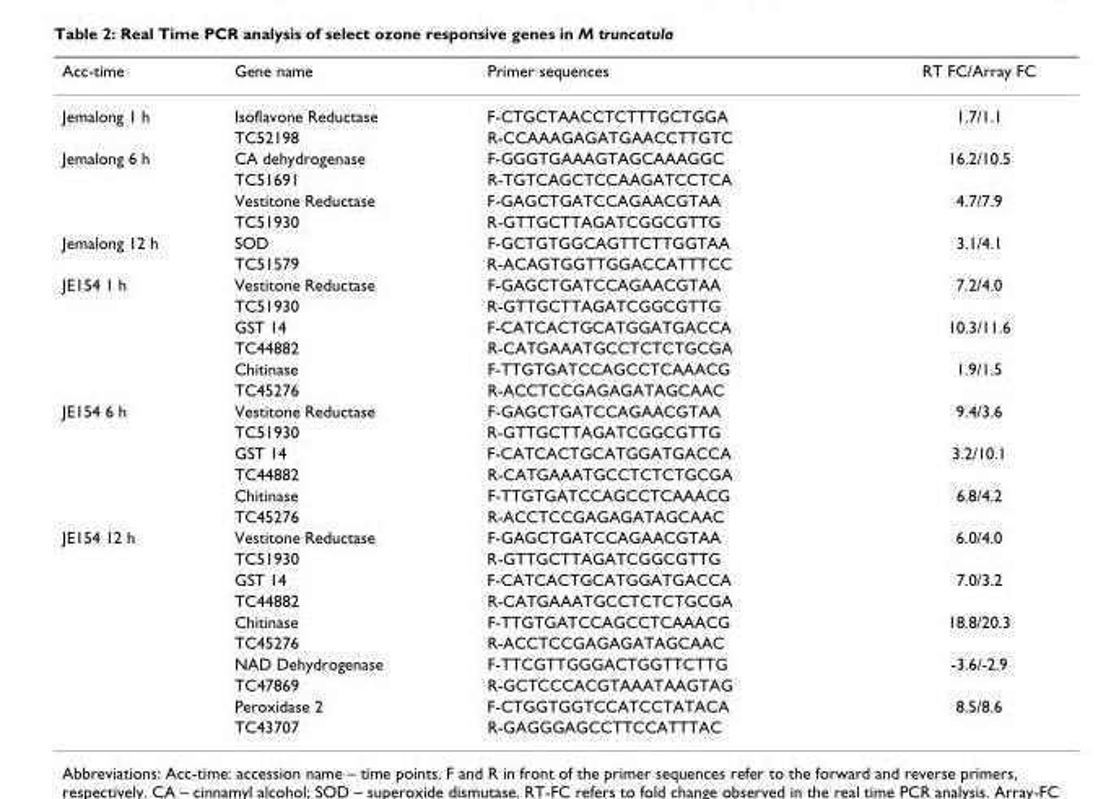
<table><thead><tr><td>Acc-time</td><td>Gene name</td><td>Primer sequences</td><td>RT FC/Array FC</td></tr></thead><tbody><tr><td rowspan="2">Jemalong 1 h</td><td>Isoflavone Reductase</td><td>F-CTGCTAACCTCTTTGCTGGA</td><td>1.7/1.1</td></tr><tr><td>TC52198</td><td>R-CCAAAGAGATGAACCTTGTC</td><td></td></tr><tr><td rowspan="4">Jemalong 6 h</td><td>CA dehydrogenase</td><td>F-GGGTGAAAGTAGCAAAGGC</td><td>16.2/10.5</td></tr><tr><td>TC51691</td><td>R-TGTCAGCTCCAAGATCCTCA</td><td></td></tr><tr><td>Vestitone Reductase</td><td>F-GAGCTGATCCAGAACGTAA</td><td>4.7/7.9</td></tr><tr><td>TC51930</td><td>R-GTTGCTTAGATCGGCGTTG</td><td></td></tr><tr><td rowspan="2">Jemalong 12 h</td><td>SOD</td><td>F-GCTGTGGCAGTTCTTGGTAA</td><td>3.1/4.1</td></tr><tr><td>TC51579</td><td>R-ACAGTGGTTGGACCATTTCC</td><td></td></tr><tr><td rowspan="6">JE154 1 h</td><td>Vestitone Reductase</td><td>F-GAGCTGATCCAGAACGTAA</td><td>7.2/4.0</td></tr><tr><td>TC51930</td><td>R-GTTGCTTAGATCGGCGTTG</td><td></td></tr><tr><td>GST 14</td><td>F-CATCACTGCATGGATGACCA</td><td>10.3/11.6</td></tr><tr><td>TC44882</td><td>R-CATGAAATGCCTCTCTGCGA</td><td></td></tr><tr><td>Chitinase</td><td>F-TTGTGATCCAGCCTCAAACG</td><td>1.9/1.5</td></tr><tr><td>TC45276</td><td>R-ACCTCCGAGAGATAGCAAC</td><td></td></tr><tr><td rowspan="6">JE154 6 h</td><td>Vestitone Reductase</td><td>F-GAGCTGATCCAGAACGTAA</td><td>9.4/3.6</td></tr><tr><td>TC51930</td><td>R-GTTGCTTAGATCGGCGTTG</td><td></td></tr><tr><td>GST 14</td><td>F-CATCACTGCATGGATGACCA</td><td>3.2/10.1</td></tr><tr><td>TC44882</td><td>R-CATGAAATGCCTCTCTGCGA</td><td></td></tr><tr><td>Chitinase</td><td>F-TTGTGATCCAGCCTCAAACG</td><td>6.8/4.2</td></tr><tr><td>TC45276</td><td>R-ACCTCCGAGAGATAGCAAC</td><td></td></tr><tr><td rowspan="10">JE154 12 h</td><td>Vestitone Reductase</td><td>F-GAGCTGATCCAGAACGTAA</td><td>6.0/4.0</td></tr><tr><td>TC51930</td><td>R-GTTGCTTAGATCGGCGTTG</td><td></td></tr><tr><td>GST 14</td><td>F-CATCACTGCATGGATGACCA</td><td>7.0/3.2</td></tr><tr><td>TC44882</td><td>R-CATGAAATGCCTCTCTGCGA</td><td></td></tr><tr><td>Chitinase</td><td>F-TTGTGATCCAGCCTCAAACG</td><td>18.8/20.3</td></tr><tr><td>TC45276</td><td>R-ACCTCCGAGAGATAGCAAC</td><td></td></tr><tr><td>NAD Dehydrogenase</td><td>F-TTCGTTGGGACTGGTTCTTG</td><td>-3.6/-2.9</td></tr><tr><td>TC47869</td><td>R-GCTCCCACGTAAATAAGTAG</td><td></td></tr><tr><td>Peroxidase 2</td><td>F-CTGGTGGTCCATCCTATACA</td><td>8.5/8.6</td></tr><tr><td>TC43707</td><td>R-GAGGGAGCCTTCCATTTAC</td><td></td></tr></tbody></table>